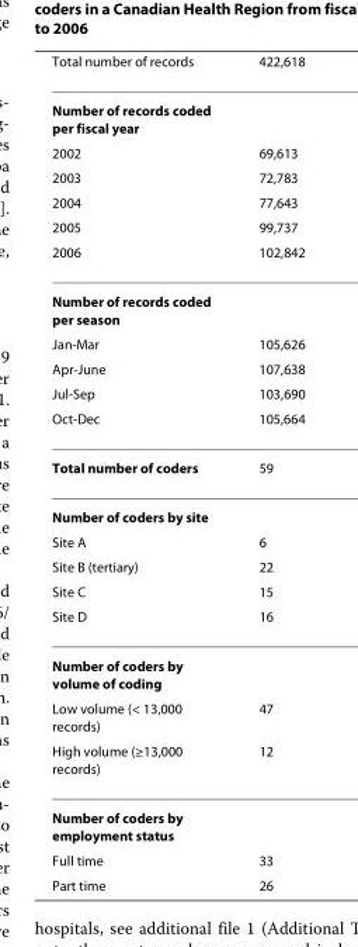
<table><thead><tr><td>Total number of records</td><td>422,618</td></tr></thead><tbody><tr><td colspan="2">Number of records coded per fiscal year</td></tr><tr><td>2002</td><td>69,613</td></tr><tr><td>2003</td><td>72,783</td></tr><tr><td>2004</td><td>77,643</td></tr><tr><td>2005</td><td>99,737</td></tr><tr><td>2006</td><td>102,842</td></tr><tr><td colspan="2">Number of records coded per season</td></tr><tr><td>Jan-Mar</td><td>105,626</td></tr><tr><td>Apr-June</td><td>107,638</td></tr><tr><td>Jul-Sep</td><td>103,690</td></tr><tr><td>Oct-Dec</td><td>105,664</td></tr><tr><td>Total number of coders</td><td>59</td></tr><tr><td colspan="2">Number of coders by site</td></tr><tr><td>Site A</td><td>6</td></tr><tr><td>Site B (tertiary)</td><td>22</td></tr><tr><td>Site C</td><td>15</td></tr><tr><td>Site D</td><td>16</td></tr><tr><td colspan="2">Number of coders by volume of coding</td></tr><tr><td>Low volume (&lt; 13,000 records)</td><td>47</td></tr><tr><td>High volume (≥13,000 records)</td><td>12</td></tr><tr><td colspan="2">Number of coders by employment status</td></tr><tr><td>Full time</td><td>33</td></tr><tr><td>Part time</td><td>26</td></tr></tbody></table>